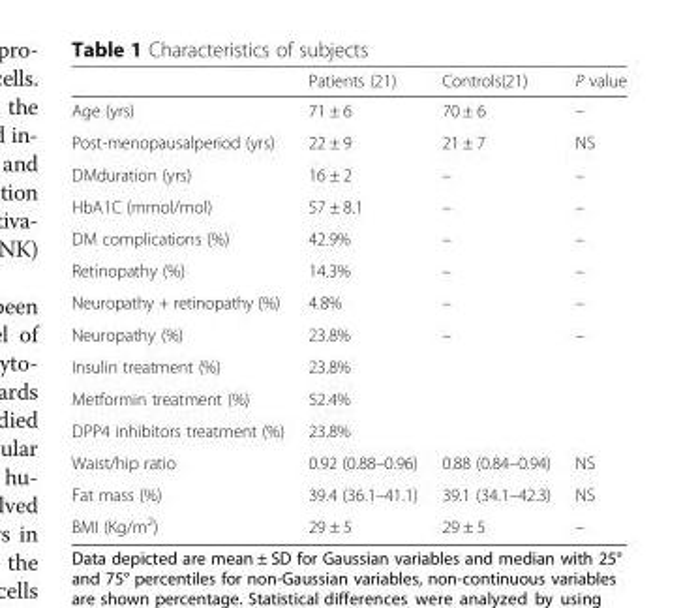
<table><thead><tr><td></td><td>Patients (21)</td><td>Controls(21)</td><td>P value</td></tr></thead><tbody><tr><td>Age (yrs)</td><td>71 ± 6</td><td>70 ± 6</td><td>–</td></tr><tr><td>Post-menopausalperiod (yrs)</td><td>22 ± 9</td><td>21 ± 7</td><td>NS</td></tr><tr><td>DMduration (yrs)</td><td>16 ± 2</td><td>–</td><td>–</td></tr><tr><td>HbA1C (mmol/mol)</td><td>57 ± 8.1</td><td>–</td><td>–</td></tr><tr><td>DM complications (%)</td><td>42.9%</td><td>–</td><td>–</td></tr><tr><td>Retinopathy (%)</td><td>14.3%</td><td>–</td><td>–</td></tr><tr><td>Neuropathy + retinopathy (%)</td><td>4.8%</td><td>–</td><td>–</td></tr><tr><td>Neuropathy (%)</td><td>23.8%</td><td>–</td><td>–</td></tr><tr><td>Insulin treatment (%)</td><td>23.8%</td><td></td><td></td></tr><tr><td>Metformin treatment (%)</td><td>52.4%</td><td></td><td></td></tr><tr><td>DPP4 inhibitors treatment (%)</td><td>23.8%</td><td></td><td></td></tr><tr><td>Waist/hip ratio</td><td>0.92 (0.88–0.96)</td><td>0.88 (0.84–0.94)</td><td>NS</td></tr><tr><td>Fat mass (%)</td><td>39.4 (36.1–41.1)</td><td>39.1 (34.1–42.3)</td><td>NS</td></tr><tr><td>BMI (Kg/m<sup>2</sup>)</td><td>29 ± 5</td><td>29 ± 5</td><td>–</td></tr></tbody></table>